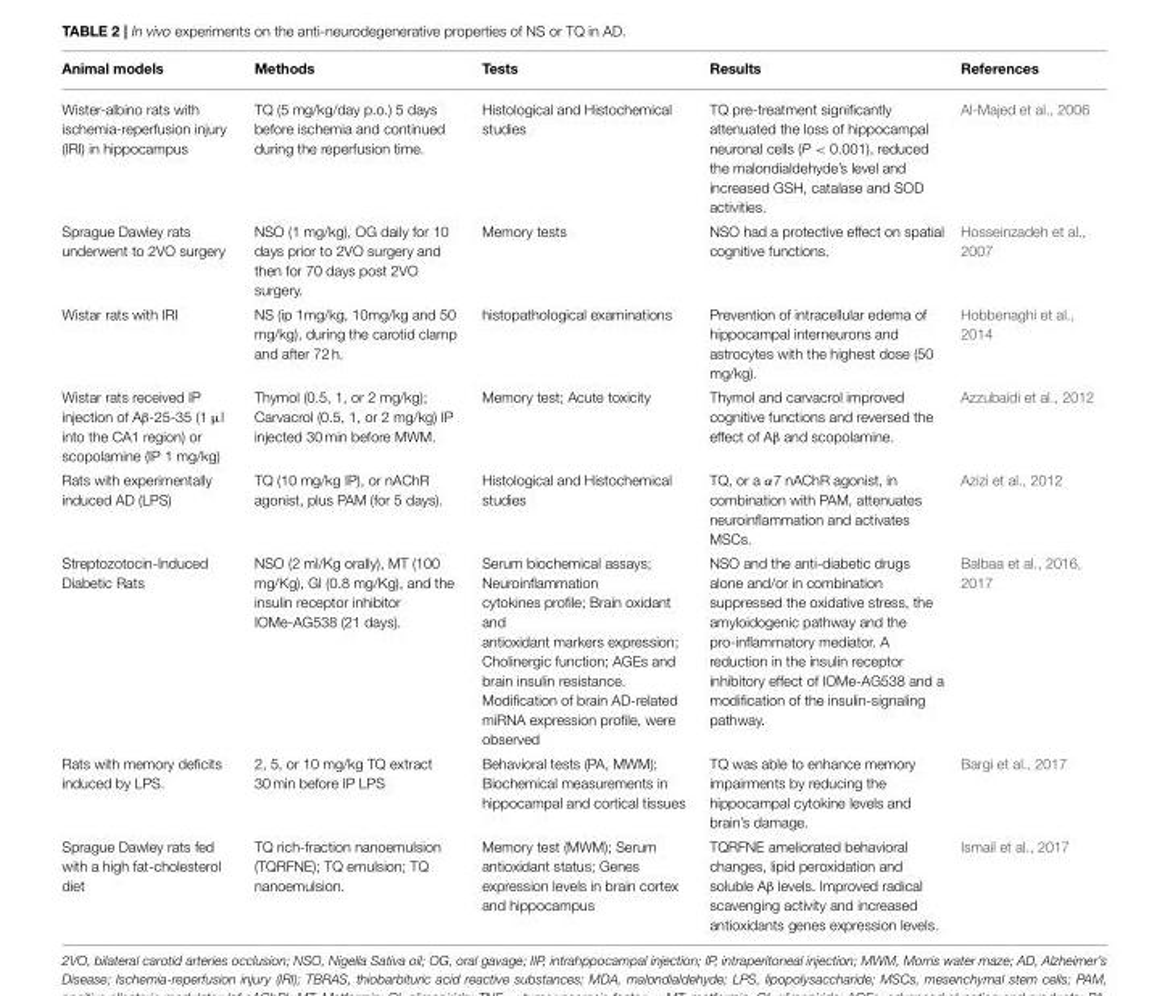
<table><thead><tr><td>Animal models</td><td>Methods</td><td>Tests</td><td>Results</td><td>References</td></tr></thead><tbody><tr><td>Wister-albino rats with ischemia-reperfusion injury (IRI) in hippocampus</td><td>TQ (5 mg/kg/day p.o.) 5 days before ischemia and continued during the reperfusion time.</td><td>Histological and Histochemical studies</td><td>TQ pre-treatment significantly attenuated the loss of hippocampal neuronal cells (P &lt; 0.001), reduced the malondialdehyde’s level and increased GSH, catalase and SOD activities.</td><td>Al-Majed et al., 2006</td></tr><tr><td>Sprague Dawley rats underwent to 2VO surgery</td><td>NSO (1 mg/kg), OG daily for 10 days prior to 2VO surgery and then for 70 days post 2VO surgery.</td><td>Memory tests</td><td>NSO had a protective effect on spatial cognitive functions.</td><td>Hosseinzadeh et al., 2007</td></tr><tr><td>Wistar rats with IRI</td><td>NS (ip 1mg/kg, 10mg/kg and 50 mg/kg), during the carotid clamp and after 72 h.</td><td>histopathological examinations</td><td>Prevention of intracellular edema of hippocampal interneurons and astrocytes with the highest dose (50 mg/kg).</td><td>Hobbenaghi et al., 2014</td></tr><tr><td>Wistar rats received IP injection of Aβ-25-35 (1 µl into the CA1 region) or scopolamine (IP 1 mg/kg)</td><td>Thymol (0.5, 1, or 2 mg/kg); Carvacrol (0.5, 1, or 2 mg/kg) IP injected 30 min before MWM.</td><td>Memory test; Acute toxicity</td><td>Thymol and carvacrol improved cognitive functions and reversed the effect of Aβ and scopolamine.</td><td>Azzubaidi et al., 2012</td></tr><tr><td>Rats with experimentally induced AD (LPS)</td><td>TQ (10 mg/kg IP), or nAChR agonist, plus PAM (for 5 days).</td><td>Histological and Histochemical studies</td><td>TQ, or a α7 nAChR agonist, in combination with PAM, attenuates neuroinflammation and activates MSCs.</td><td>Azizi et al., 2012</td></tr><tr><td>Streptozotocin-Induced Diabetic Rats</td><td>NSO (2 ml/Kg orally), MT (100 mg/Kg), GI (0.8 mg/Kg), and the insulin receptor inhibitor IOMe-AG538 (21 days).</td><td>Serum biochemical assays; Neuroinflammation cytokines profile; Brain oxidant and antioxidant markers expression; Cholinergic function; AGEs and brain insulin resistance. Modification of brain AD-related miRNA expression profile, were observed</td><td>NSO and the anti-diabetic drugs alone and/or in combination suppressed the oxidative stress, the amyloidogenic pathway and the pro-inflammatory mediator. A reduction in the insulin receptor inhibitory effect of IOMe-AG538 and a modification of the insulin-signaling pathway.</td><td>Balbaa et al., 2016, 2017</td></tr><tr><td>Rats with memory deficits induced by LPS.</td><td>2, 5, or 10 mg/kg TQ extract 30 min before IP LPS</td><td>Behavioral tests (PA, MWM); Biochemical measurements in hippocampal and cortical tissues</td><td>TQ was able to enhance memory impairments by reducing the hippocampal cytokine levels and brain’s damage.</td><td>Bargi et al., 2017</td></tr><tr><td>Sprague Dawley rats fed with a high fat-cholesterol diet</td><td>TQ rich-fraction nanoemulsion (TQRFNE); TQ emulsion; TQ nanoemulsion.</td><td>Memory test (MWM); Serum antioxidant status; Genes expression levels in brain cortex and hippocampus</td><td>TQRFNE ameliorated behavioral changes, lipid peroxidation and soluble Aβ levels. Improved radical scavenging activity and increased antioxidants genes expression levels.</td><td>Ismail et al., 2017</td></tr></tbody></table>